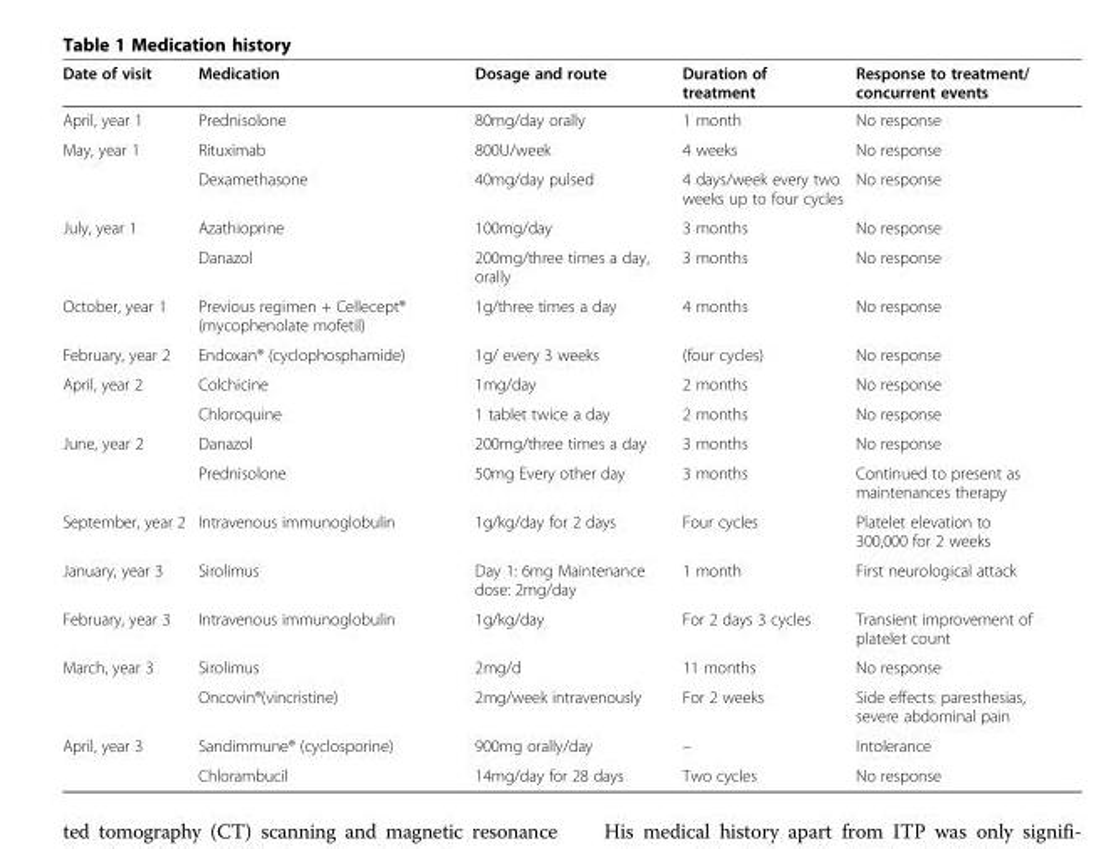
<table><thead><tr><td>Date of visit</td><td>Medication</td><td>Dosage and route</td><td>Duration of treatment</td><td>Response to treatment/ concurrent events</td></tr></thead><tbody><tr><td>April, year 1</td><td>Prednisolone</td><td>80mg/day orally</td><td>1 month</td><td>No response</td></tr><tr><td rowspan="2">May, year 1</td><td>Rituximab</td><td>800U/week</td><td>4 weeks</td><td>No response</td></tr><tr><td>Dexamethasone</td><td>40mg/day pulsed</td><td>4 days/week every two weeks up to four cycles</td><td>No response</td></tr><tr><td rowspan="2">July, year 1</td><td>Azathioprine</td><td>100mg/day</td><td>3 months</td><td>No response</td></tr><tr><td>Danazol</td><td>200mg/three times a day, orally</td><td>3 months</td><td>No response</td></tr><tr><td>October, year 1</td><td>Previous regimen + Cellecept® (mycophenolate mofetil)</td><td>1g/three times a day</td><td>4 months</td><td>No response</td></tr><tr><td>February, year 2</td><td>Endoxan® (cyclophosphamide)</td><td>1g/ every 3 weeks</td><td>(four cycles)</td><td>No response</td></tr><tr><td rowspan="2">April, year 2</td><td>Colchicine</td><td>1mg/day</td><td>2 months</td><td>No response</td></tr><tr><td>Chloroquine</td><td>1 tablet twice a day</td><td>2 months</td><td>No response</td></tr><tr><td rowspan="2">June, year 2</td><td>Danazol</td><td>200mg/three times a day</td><td>3 months</td><td>No response</td></tr><tr><td>Prednisolone</td><td>50mg Every other day</td><td>3 months</td><td>Continued to present as maintenances therapy</td></tr><tr><td>September, year 2</td><td>Intravenous immunoglobulin</td><td>1g/kg/day for 2 days</td><td>Four cycles</td><td>Platelet elevation to 300,000 for 2 weeks</td></tr><tr><td>January, year 3</td><td>Sirolimus</td><td>Day 1: 6mg Maintenance dose: 2mg/day</td><td>1 month</td><td>First neurological attack</td></tr><tr><td>February, year 3</td><td>Intravenous immunoglobulin</td><td>1g/kg/day</td><td>For 2 days 3 cycles</td><td>Transient improvement of platelet count</td></tr><tr><td rowspan="2">March, year 3</td><td>Sirolimus</td><td>2mg/d</td><td>11 months</td><td>No response</td></tr><tr><td>Oncovin®(vincristine)</td><td>2mg/week intravenously</td><td>For 2 weeks</td><td>Side effects: paresthesias, severe abdominal pain</td></tr><tr><td rowspan="2">April, year 3</td><td>Sandimmune® (cyclosporine)</td><td>900mg orally/day</td><td>–</td><td>Intolerance</td></tr><tr><td>Chlorambucil</td><td>14mg/day for 28 days</td><td>Two cycles</td><td>No response</td></tr></tbody></table>